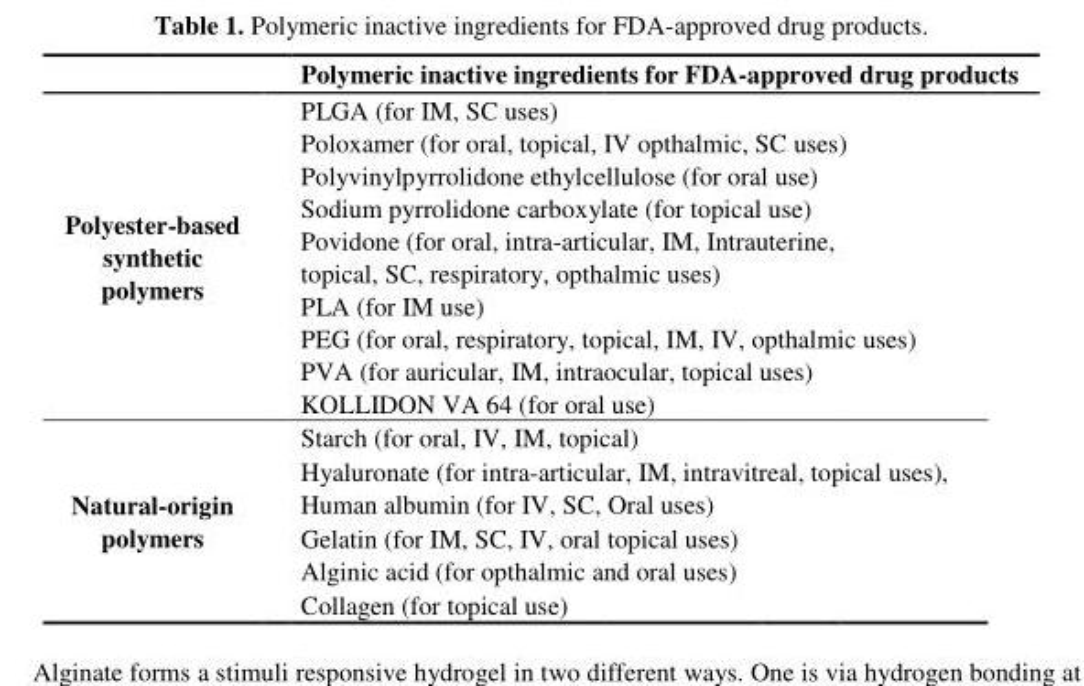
<table><thead><tr><td></td><td>Polymeric inactive ingredients for FDA-approved drug products</td></tr></thead><tbody><tr><td>Polyester-based synthetic polymers</td><td>PLGA (for IM, SC uses) Poloxamer (for oral, topical, IV opthalmic, SC uses) Polyvinylpyrrolidone ethylcellulose (for oral use) Sodium pyrrolidone carboxylate (for topical use) Povidone (for oral, intra-articular, IM, Intrauterine, topical, SC, respiratory, opthalmic uses) PLA (for IM use) PEG (for oral, respiratory, topical, IM, IV, opthalmic uses) PVA (for auricular, IM, intraocular, topical uses) KOLLIDON VA 64 (for oral use)</td></tr><tr><td>Natural-origin polymers</td><td>Starch (for oral, IV, IM, topical) Hyaluronate (for intra-articular, IM, intravitreal, topical uses), Human albumin (for IV, SC, Oral uses) Gelatin (for IM, SC, IV, oral topical uses) Alginic acid (for opthalmic and oral uses) Collagen (for topical use)</td></tr></tbody></table>